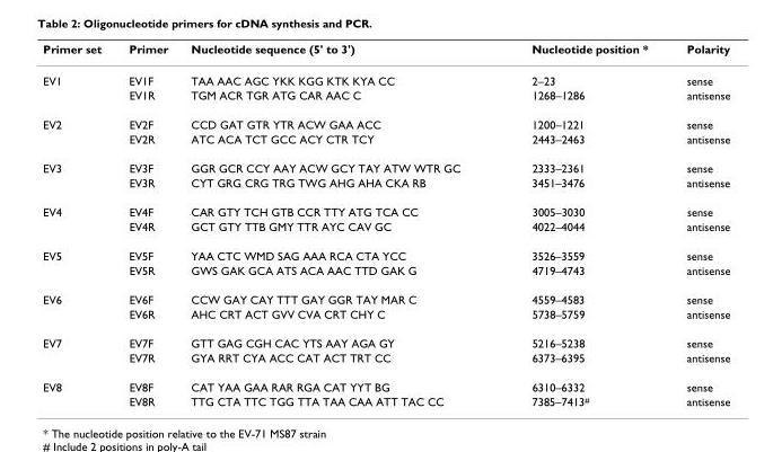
<table><thead><tr><td>Primer set</td><td>Primer</td><td>Nucleotide sequence (5&#x27; to 3&#x27;)</td><td>Nucleotide position *</td><td>Polarity</td></tr></thead><tbody><tr><td rowspan="2">EV1</td><td>EV1F</td><td>TAA AAC AGC YKK KGG KTK KYA CC</td><td>2–23</td><td>sense</td></tr><tr><td>EV1R</td><td>TGM ACR TGR ATG CAR AAC C</td><td>1268–1286</td><td>antisense</td></tr><tr><td rowspan="2">EV2</td><td>EV2F</td><td>CCD GAT GTR YTR ACW GAA ACC</td><td>1200–1221</td><td>sense</td></tr><tr><td>EV2R</td><td>ATC ACA TCT GCC ACY CTR TCY</td><td>2443–2463</td><td>antisense</td></tr><tr><td rowspan="2">EV3</td><td>EV3F</td><td>GGR GCR CCY AAY ACW GCY TAY ATW WTR GC</td><td>2333–2361</td><td>sense</td></tr><tr><td>EV3R</td><td>CYT GRG CRG TRG TWG AHG AHA CKA RB</td><td>3451–3476</td><td>antisense</td></tr><tr><td rowspan="2">EV4</td><td>EV4F</td><td>CAR GTY TCH GTB CCR TTY ATG TCA CC</td><td>3005–3030</td><td>sense</td></tr><tr><td>EV4R</td><td>GCT GTY TTB GMY TTR AYC CAV GC</td><td>4022–4044</td><td>antisense</td></tr><tr><td rowspan="2">EV5</td><td>EV5F</td><td>YAA CTC WMD SAG AAA RCA CTA YCC</td><td>3526–3559</td><td>sense</td></tr><tr><td>EV5R</td><td>GWS GAK GCA ATS ACA AAC TTD GAK G</td><td>4719–4743</td><td>antisense</td></tr><tr><td rowspan="2">EV6</td><td>EV6F</td><td>CCW GAY CAY TTT GAY GGR TAY MAR C</td><td>4559–4583</td><td>sense</td></tr><tr><td>EV6R</td><td>AHC CRT ACT GVV CVA CRT CHY C</td><td>5738–5759</td><td>antisense</td></tr><tr><td rowspan="2">EV7</td><td>EV7F</td><td>GTT GAG CGH CAC YTS AAY AGA GY</td><td>5216–5238</td><td>sense</td></tr><tr><td>EV7R</td><td>GYA RRT CYA ACC CAT ACT TRT CC</td><td>6373–6395</td><td>antisense</td></tr><tr><td rowspan="2">EV8</td><td>EV8F</td><td>CAT YAA GAA RAR RGA CAT YYT BG</td><td>6310–6332</td><td>sense</td></tr><tr><td>EV8R</td><td>TTG CTA TTC TGG TTA TAA CAA ATT TAC CC</td><td>7385–7413#</td><td>antisense</td></tr></tbody></table>